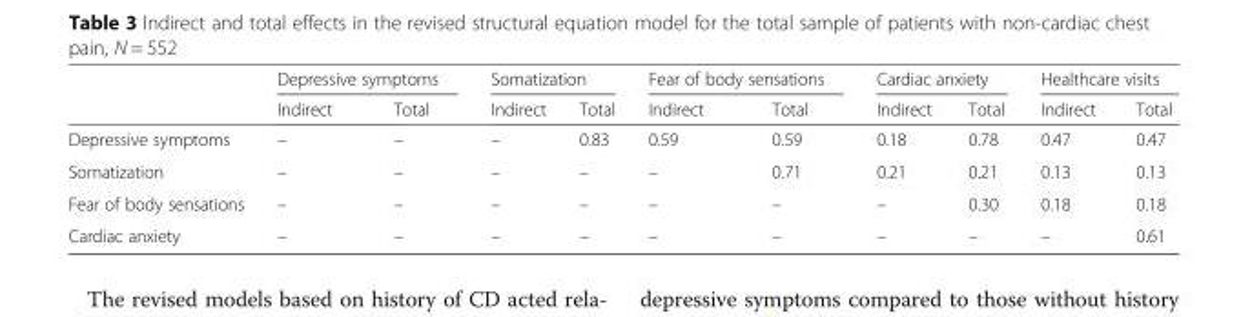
<table><thead><tr><td rowspan="2"></td><td colspan="2">Depressive symptoms</td><td colspan="2">Somatization</td><td colspan="2">Fear of body sensations</td><td colspan="2">Cardiac anxiety</td><td colspan="2">Healthcare visits</td></tr><tr><td>Indirect</td><td>Total</td><td>Indirect</td><td>Total</td><td>Indirect</td><td>Total</td><td>Indirect</td><td>Total</td><td>Indirect</td><td>Total</td></tr></thead><tbody><tr><td>Depressive symptoms</td><td>–</td><td>–</td><td>–</td><td>0.83</td><td>0.59</td><td>0.59</td><td>0.18</td><td>0.78</td><td>0.47</td><td>0.47</td></tr><tr><td>Somatization</td><td>–</td><td>–</td><td>–</td><td>–</td><td>–</td><td>0.71</td><td>0.21</td><td>0.21</td><td>0.13</td><td>0.13</td></tr><tr><td>Fear of body sensations</td><td>–</td><td>–</td><td>–</td><td>–</td><td>–</td><td>–</td><td>–</td><td>0.30</td><td>0.18</td><td>0.18</td></tr><tr><td>Cardiac anxiety</td><td>–</td><td>–</td><td>–</td><td>–</td><td>–</td><td>–</td><td>–</td><td>–</td><td>–</td><td>0.61</td></tr></tbody></table>